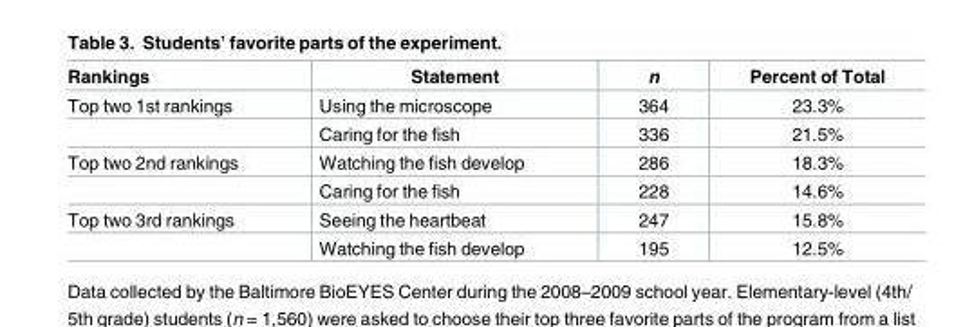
<table><thead><tr><td>Rankings</td><td>Statement</td><td>n</td><td>Percent of Total</td></tr></thead><tbody><tr><td rowspan="2">Top two 1st rankings</td><td>Using the microscope</td><td>364</td><td>23.3%</td></tr><tr><td>Caring for the fish</td><td>336</td><td>21.5%</td></tr><tr><td rowspan="2">Top two 2nd rankings</td><td>Watching the fish develop</td><td>286</td><td>18.3%</td></tr><tr><td>Caring for the fish</td><td>228</td><td>14.6%</td></tr><tr><td rowspan="2">Top two 3rd rankings</td><td>Seeing the heartbeat</td><td>247</td><td>15.8%</td></tr><tr><td>Watching the fish develop</td><td>195</td><td>12.5%</td></tr></tbody></table>